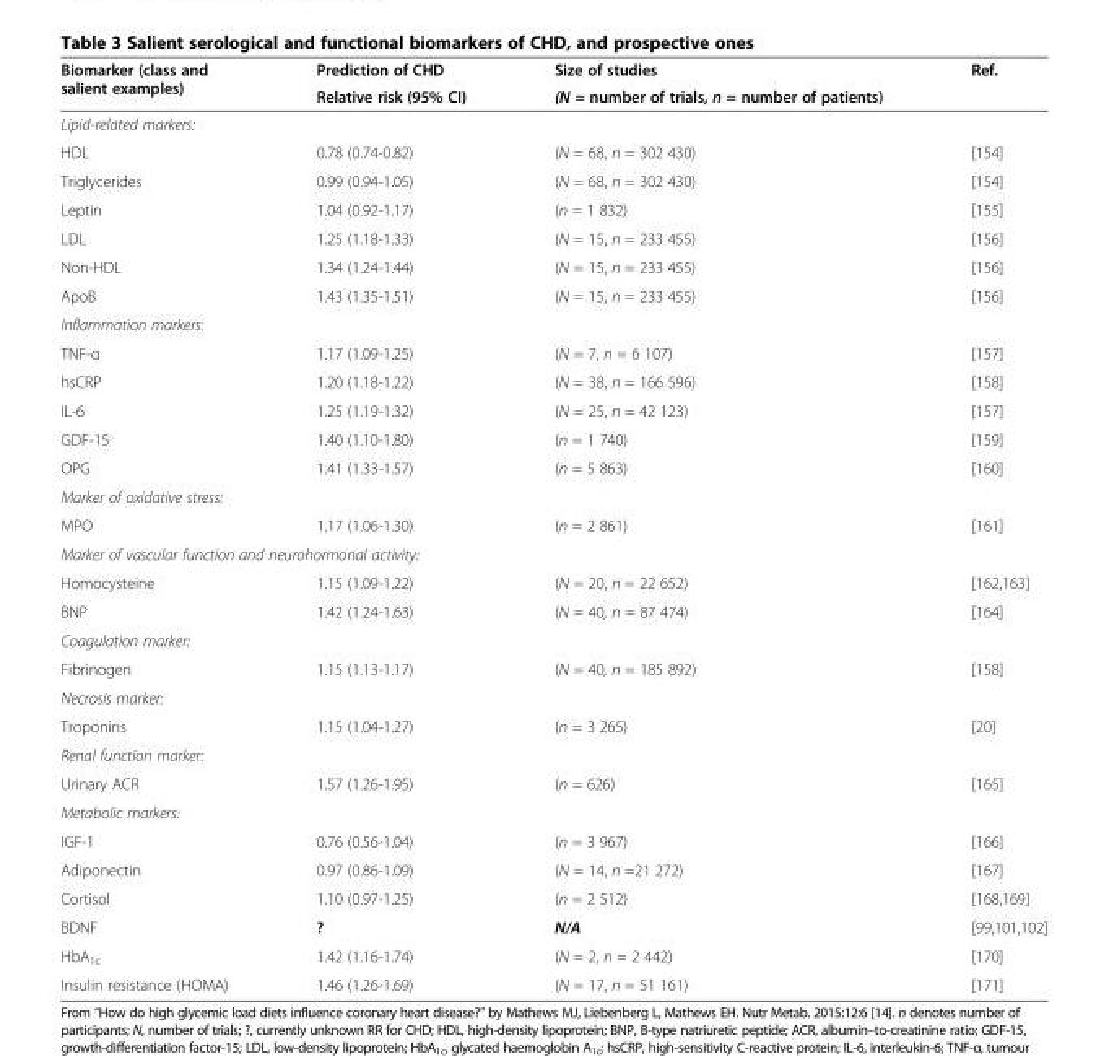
<table><thead><tr><td rowspan="2">Biomarker (class and salient examples)</td><td rowspan="2">Prediction of CHD Relative risk (95% CI)</td><td rowspan="2">Size of studies (N = number of trials, n = number of patients)</td><td rowspan="2">Ref.</td></tr><tr></tr></thead><tbody><tr><td colspan="4">Lipid-related markers:</td></tr><tr><td>HDL</td><td>0.78 (0.74-0.82)</td><td>(N = 68, n = 302 430)</td><td>[154]</td></tr><tr><td>Triglycerides</td><td>0.99 (0.94-1.05)</td><td>(N = 68, n = 302 430)</td><td>[154]</td></tr><tr><td>Leptin</td><td>1.04 (0.92-1.17)</td><td>(n = 1 832)</td><td>[155]</td></tr><tr><td>LDL</td><td>1.25 (1.18-1.33)</td><td>(N = 15, n = 233 455)</td><td>[156]</td></tr><tr><td>Non-HDL</td><td>1.34 (1.24-1.44)</td><td>(N = 15, n = 233 455)</td><td>[156]</td></tr><tr><td>ApoB</td><td>1.43 (1.35-1.51)</td><td>(N = 15, n = 233 455)</td><td>[156]</td></tr><tr><td colspan="4">Inflammation markers:</td></tr><tr><td>TNF-α</td><td>1.17 (1.09-1.25)</td><td>(N = 7, n = 6 107)</td><td>[157]</td></tr><tr><td>hsCRP</td><td>1.20 (1.18-1.22)</td><td>(N = 38, n = 166 596)</td><td>[158]</td></tr><tr><td>IL-6</td><td>1.25 (1.19-1.32)</td><td>(N = 25, n = 42 123)</td><td>[157]</td></tr><tr><td>GDF-15</td><td>1.40 (1.10-1.80)</td><td>(n = 1 740)</td><td>[159]</td></tr><tr><td>OPG</td><td>1.41 (1.33-1.57)</td><td>(n = 5 863)</td><td>[160]</td></tr><tr><td colspan="4">Marker of oxidative stress:</td></tr><tr><td>MPO</td><td>1.17 (1.06-1.30)</td><td>(n = 2 861)</td><td>[161]</td></tr><tr><td colspan="4">Marker of vascular function and neurohormonal activity:</td></tr><tr><td>Homocysteine</td><td>1.15 (1.09-1.22)</td><td>(N = 20, n = 22 652)</td><td>[162,163]</td></tr><tr><td>BNP</td><td>1.42 (1.24-1.63)</td><td>(N = 40, n = 87 474)</td><td>[164]</td></tr><tr><td colspan="4">Coagulation marker:</td></tr><tr><td>Fibrinogen</td><td>1.15 (1.13-1.17)</td><td>(N = 40, n = 185 892)</td><td>[158]</td></tr><tr><td colspan="4">Necrosis marker:</td></tr><tr><td>Troponins</td><td>1.15 (1.04-1.27)</td><td>(n = 3 265)</td><td>[20]</td></tr><tr><td colspan="4">Renal function marker:</td></tr><tr><td>Urinary ACR</td><td>1.57 (1.26-1.95)</td><td>(n = 626)</td><td>[165]</td></tr><tr><td colspan="4">Metabolic markers:</td></tr><tr><td>IGF-1</td><td>0.76 (0.56-1.04)</td><td>(n = 3 967)</td><td>[166]</td></tr><tr><td>Adiponectin</td><td>0.97 (0.86-1.09)</td><td>(N = 14, n =21 272)</td><td>[167]</td></tr><tr><td>Cortisol</td><td>1.10 (0.97-1.25)</td><td>(n = 2 512)</td><td>[168,169]</td></tr><tr><td>BDNF</td><td>?</td><td>N/A</td><td>[99,101,102]</td></tr><tr><td>HbA<sub>1c</sub></td><td>1.42 (1.16-1.74)</td><td>(N = 2, n = 2 442)</td><td>[170]</td></tr><tr><td>Insulin resistance (HOMA)</td><td>1.46 (1.26-1.69)</td><td>(N = 17, n = 51 161)</td><td>[171]</td></tr></tbody></table>